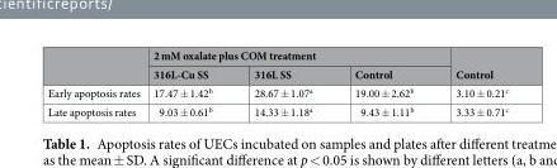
<table><thead><tr><td rowspan="2"></td><td colspan="3">2 mM oxalate plus COM treatment</td><td rowspan="2">Control</td></tr><tr><td>316L-Cu SS</td><td>316L SS</td><td>Control</td></tr></thead><tbody><tr><td>Early apoptosis rates</td><td>17.47 ± 1.42<sup>b</sup></td><td>28.67 ± 1.07<sup>a</sup></td><td>19.00 ± 2.62<sup>b</sup></td><td>3.10 ± 0.21<sup>c</sup></td></tr><tr><td>Late apoptosis rates</td><td>9.03 ± 0.61<sup>b</sup></td><td>14.33 ± 1.18<sup>a</sup></td><td>9.43 ± 1.11<sup>b</sup></td><td>3.33 ± 0.71<sup>c</sup></td></tr></tbody></table>